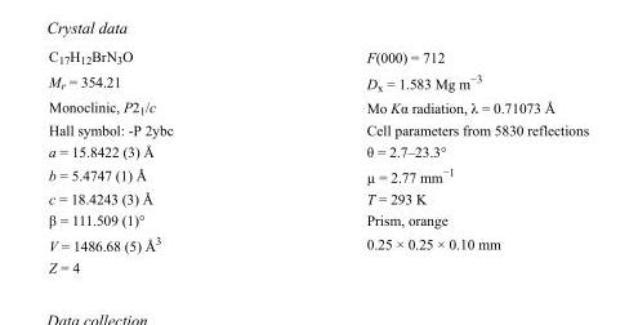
<table><tbody><tr><td>C<sub>17</sub>H<sub>12</sub>BrN<sub>3</sub>O</td><td>F(000) = 712</td></tr><tr><td>M<sub>r</sub> = 354.21</td><td>D<sub>x</sub> = 1.583 Mg m<sup>−3</sup></td></tr><tr><td>Monoclinic, P2<sub>1</sub>/c</td><td>Mo Kα radiation, λ = 0.71073 Å</td></tr><tr><td>Hall symbol: -P 2ybc</td><td>Cell parameters from 5830 reflections</td></tr><tr><td>a = 15.8422 (3) Å</td><td>θ = 2.7–23.3°</td></tr><tr><td>b = 5.4747 (1) Å</td><td>µ = 2.77 mm<sup>−1</sup></td></tr><tr><td>c = 18.4243 (3) Å</td><td>T = 293 K</td></tr><tr><td>β = 111.509 (1)°</td><td>Prism, orange</td></tr><tr><td>V = 1486.68 (5) Å<sup>3</sup></td><td>0.25 × 0.25 × 0.10 mm</td></tr><tr><td>Z = 4</td><td></td></tr></tbody></table>